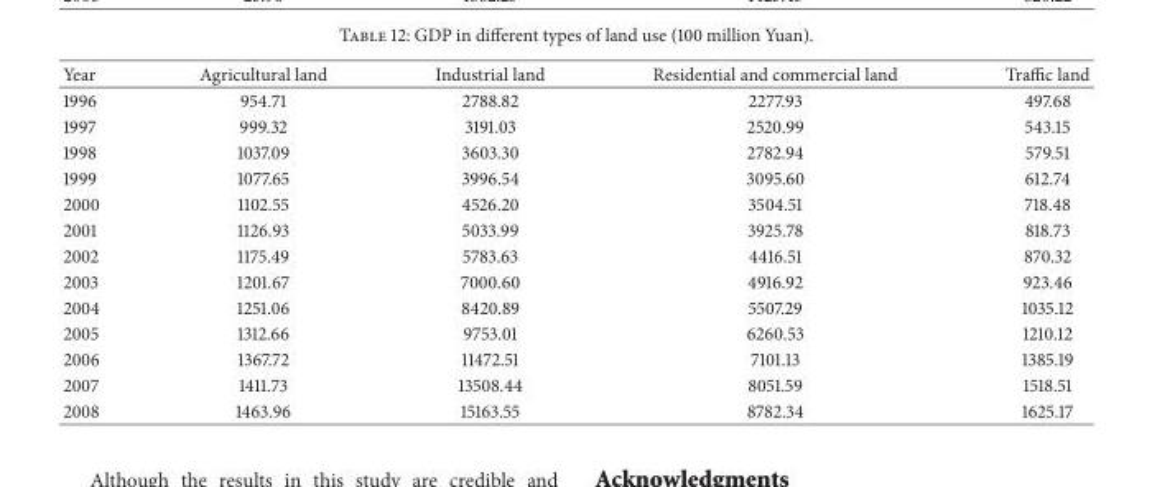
<table><thead><tr><td>Year</td><td>Agricultural land</td><td>Industrial land</td><td>Residential and commercial land</td><td>Traffic land</td></tr></thead><tbody><tr><td>1996</td><td>954.71</td><td>2788.82</td><td>2277.93</td><td>497.68</td></tr><tr><td>1997</td><td>999.32</td><td>3191.03</td><td>2520.99</td><td>543.15</td></tr><tr><td>1998</td><td>1037.09</td><td>3603.30</td><td>2782.94</td><td>579.51</td></tr><tr><td>1999</td><td>1077.65</td><td>3996.54</td><td>3095.60</td><td>612.74</td></tr><tr><td>2000</td><td>1102.55</td><td>4526.20</td><td>3504.51</td><td>718.48</td></tr><tr><td>2001</td><td>1126.93</td><td>5033.99</td><td>3925.78</td><td>818.73</td></tr><tr><td>2002</td><td>1175.49</td><td>5783.63</td><td>4416.51</td><td>870.32</td></tr><tr><td>2003</td><td>1201.67</td><td>7000.60</td><td>4916.92</td><td>923.46</td></tr><tr><td>2004</td><td>1251.06</td><td>8420.89</td><td>5507.29</td><td>1035.12</td></tr><tr><td>2005</td><td>1312.66</td><td>9753.01</td><td>6260.53</td><td>1210.12</td></tr><tr><td>2006</td><td>1367.72</td><td>11472.51</td><td>7101.13</td><td>1385.19</td></tr><tr><td>2007</td><td>1411.73</td><td>13508.44</td><td>8051.59</td><td>1518.51</td></tr><tr><td>2008</td><td>1463.96</td><td>15163.55</td><td>8782.34</td><td>1625.17</td></tr></tbody></table>